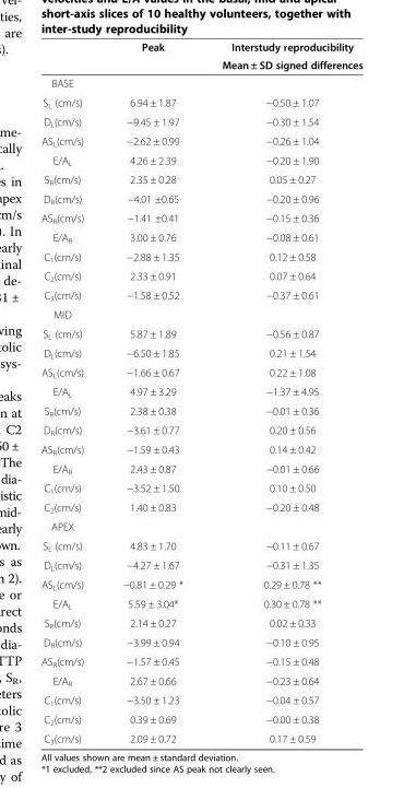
<table><thead><tr><td rowspan="2"></td><td rowspan="2">Peak</td><td rowspan="2">Interstudy reproducibility Mean ± SD signed differences</td></tr><tr></tr></thead><tbody><tr><td colspan="3">BASE</td></tr><tr><td>S<sub>L</sub> (cm/s)</td><td>6.94 ± 1.87</td><td>−0.50 ± 1.07</td></tr><tr><td>D<sub>L</sub>(cm/s)</td><td>−9.45 ± 1.97</td><td>−0.30 ± 1.54</td></tr><tr><td>AS<sub>L</sub>(cm/s)</td><td>−2.62 ± 0.99</td><td>−0.26 ± 1.04</td></tr><tr><td>E/A<sub>L</sub></td><td>4.26 ± 2.39</td><td>−0.20 ± 1.90</td></tr><tr><td>S<sub>R</sub>(cm/s)</td><td>2.35 ± 0.28</td><td>0.05 ± 0.27</td></tr><tr><td>D<sub>R</sub>(cm/s)</td><td>−4.01 ±0.65</td><td>−0.20 ± 0.96</td></tr><tr><td>AS<sub>R</sub>(cm/s)</td><td>−1.41 ±0.41</td><td>−0.15 ± 0.36</td></tr><tr><td>E/A<sub>R</sub></td><td>3.00 ± 0.76</td><td>−0.08 ± 0.61</td></tr><tr><td>C<sub>1</sub>(cm/s)</td><td>−2.88 ± 1.35</td><td>0.12 ± 0.58</td></tr><tr><td>C<sub>2</sub>(cm/s)</td><td>2.33 ± 0.91</td><td>0.07 ± 0.64</td></tr><tr><td>C<sub>3</sub>(cm/s)</td><td>−1.58 ± 0.52</td><td>−0.37 ± 0.61</td></tr><tr><td colspan="3">MID</td></tr><tr><td>S<sub>L</sub> (cm/s)</td><td>5.87 ± 1.89</td><td>−0.56 ± 0.87</td></tr><tr><td>D<sub>L</sub>(cm/s)</td><td>−6.50 ± 1.85</td><td>0.21 ± 1.54</td></tr><tr><td>AS<sub>L</sub>(cm/s)</td><td>−1.66 ± 0.67</td><td>0.22 ± 1.08</td></tr><tr><td>E/A<sub>L</sub></td><td>4.97 ± 3.29</td><td>−1.37 ± 4.95</td></tr><tr><td>S<sub>R</sub>(cm/s)</td><td>2.38 ± 0.38</td><td>−0.01 ± 0.36</td></tr><tr><td>D<sub>R</sub>(cm/s)</td><td>−3.61 ± 0.77</td><td>0.20 ± 0.56</td></tr><tr><td>AS<sub>R</sub>(cm/s)</td><td>−1.59 ± 0.43</td><td>0.14 ± 0.42</td></tr><tr><td>E/A<sub>R</sub></td><td>2.43 ± 0.87</td><td>−0.01 ± 0.66</td></tr><tr><td>C<sub>1</sub>(cm/s)</td><td>−3.52 ± 1.50</td><td>0.10 ± 0.50</td></tr><tr><td>C<sub>2</sub>(cm/s)</td><td>1.40 ± 0.83</td><td>−0.20 ± 0.48</td></tr><tr><td colspan="3">APEX</td></tr><tr><td>S<sub>L</sub> (cm/s)</td><td>4.83 ± 1.70</td><td>−0.11 ± 0.67</td></tr><tr><td>D<sub>L</sub>(cm/s)</td><td>−4.27 ± 1.67</td><td>−0.31 ± 1.35</td></tr><tr><td>AS<sub>L</sub>(cm/s)</td><td>−0.81 ± 0.29 *</td><td>0.29 ± 0.78 **</td></tr><tr><td>E/A<sub>L</sub></td><td>5.59 ± 3.04*</td><td>0.30 ± 0.78 **</td></tr><tr><td>S<sub>R</sub>(cm/s)</td><td>2.14 ± 0.27</td><td>0.02 ± 0.33</td></tr><tr><td>D<sub>R</sub>(cm/s)</td><td>−3.99 ± 0.94</td><td>−0.10 ± 0.95</td></tr><tr><td>AS<sub>R</sub>(cm/s)</td><td>−1.57 ± 0.45</td><td>−0.15 ± 0.48</td></tr><tr><td>E/A<sub>R</sub></td><td>2.67 ± 0.66</td><td>−0.23 ± 0.64</td></tr><tr><td>C<sub>1</sub>(cm/s)</td><td>−3.50 ± 1.23</td><td>−0.04 ± 0.57</td></tr><tr><td>C<sub>2</sub>(cm/s)</td><td>0.39 ± 0.69</td><td>−0.00 ± 0.38</td></tr><tr><td>C<sub>3</sub>(cm/s)</td><td>2.09 ± 0.72</td><td>0.17 ± 0.59</td></tr></tbody></table>